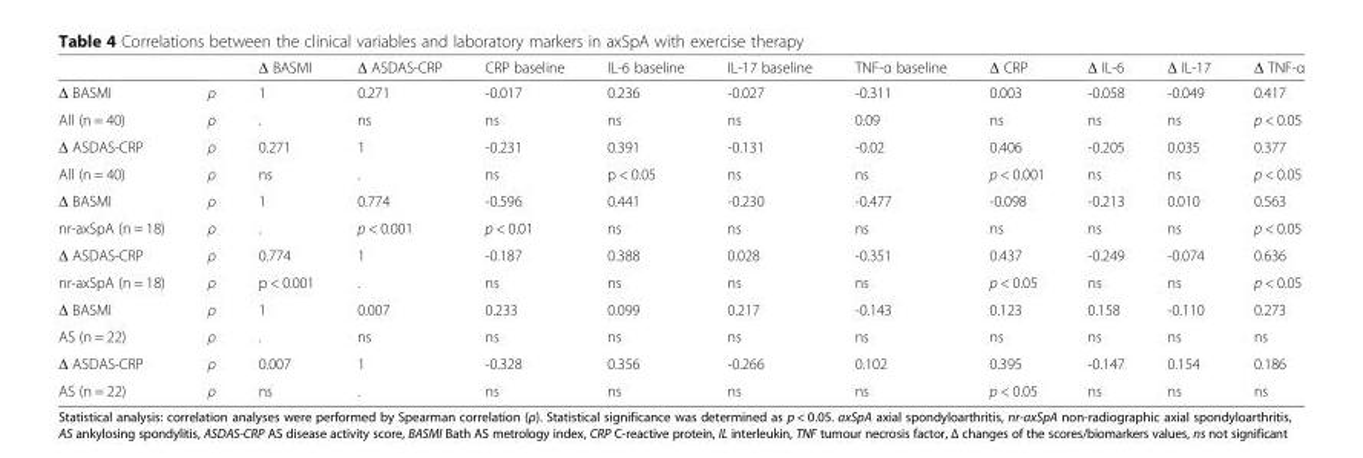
<table><thead><tr><td></td><td></td><td>Δ BASMI</td><td>Δ ASDAS-CRP</td><td>CRP baseline</td><td>IL-6 baseline</td><td>IL-17 baseline</td><td>TNF-α baseline</td><td>Δ CRP</td><td>Δ IL-6</td><td>Δ IL-17</td><td>Δ TNF-α</td></tr></thead><tbody><tr><td>Δ BASMI</td><td>ρ</td><td>1</td><td>0.271</td><td>-0.017</td><td>0.236</td><td>-0.027</td><td>-0.311</td><td>0.003</td><td>-0.058</td><td>-0.049</td><td>0.417</td></tr><tr><td>All (n = 40)</td><td>ρ</td><td>.</td><td>ns</td><td>ns</td><td>ns</td><td>ns</td><td>0.09</td><td>ns</td><td>ns</td><td>ns</td><td>p &lt; 0.05</td></tr><tr><td>Δ ASDAS-CRP</td><td>ρ</td><td>0.271</td><td>1</td><td>-0.231</td><td>0.391</td><td>-0.131</td><td>-0.02</td><td>0.406</td><td>-0.205</td><td>0.035</td><td>0.377</td></tr><tr><td>All (n = 40)</td><td>ρ</td><td>ns</td><td>.</td><td>ns</td><td>p &lt; 0.05</td><td>ns</td><td>ns</td><td>p &lt; 0.001</td><td>ns</td><td>ns</td><td>p &lt; 0.05</td></tr><tr><td>Δ BASMI</td><td>ρ</td><td>1</td><td>0.774</td><td>-0.596</td><td>0.441</td><td>-0.230</td><td>-0.477</td><td>-0.098</td><td>-0.213</td><td>0.010</td><td>0.563</td></tr><tr><td>nr-axSpA (n = 18)</td><td>ρ</td><td>.</td><td>p &lt; 0.001</td><td>p &lt; 0.01</td><td>ns</td><td>ns</td><td>ns</td><td>ns</td><td>ns</td><td>ns</td><td>p &lt; 0.05</td></tr><tr><td>Δ ASDAS-CRP</td><td>ρ</td><td>0.774</td><td>1</td><td>-0.187</td><td>0.388</td><td>0.028</td><td>-0.351</td><td>0.437</td><td>-0.249</td><td>-0.074</td><td>0.636</td></tr><tr><td>nr-axSpA (n = 18)</td><td>ρ</td><td>p &lt; 0.001</td><td>.</td><td>ns</td><td>ns</td><td>ns</td><td>ns</td><td>p &lt; 0.05</td><td>ns</td><td>ns</td><td>p &lt; 0.05</td></tr><tr><td>Δ BASMI</td><td>ρ</td><td>1</td><td>0.007</td><td>0.233</td><td>0.099</td><td>0.217</td><td>-0.143</td><td>0.123</td><td>0.158</td><td>-0.110</td><td>0.273</td></tr><tr><td>AS (n = 22)</td><td>ρ</td><td>.</td><td>ns</td><td>ns</td><td>ns</td><td>ns</td><td>ns</td><td>ns</td><td>ns</td><td>ns</td><td>ns</td></tr><tr><td>Δ ASDAS-CRP</td><td>ρ</td><td>0.007</td><td>1</td><td>-0.328</td><td>0.356</td><td>-0.266</td><td>0.102</td><td>0.395</td><td>-0.147</td><td>0.154</td><td>0.186</td></tr><tr><td>AS (n = 22)</td><td>ρ</td><td>ns</td><td>.</td><td>ns</td><td>ns</td><td>ns</td><td>ns</td><td>p &lt; 0.05</td><td>ns</td><td>ns</td><td>ns</td></tr></tbody></table>